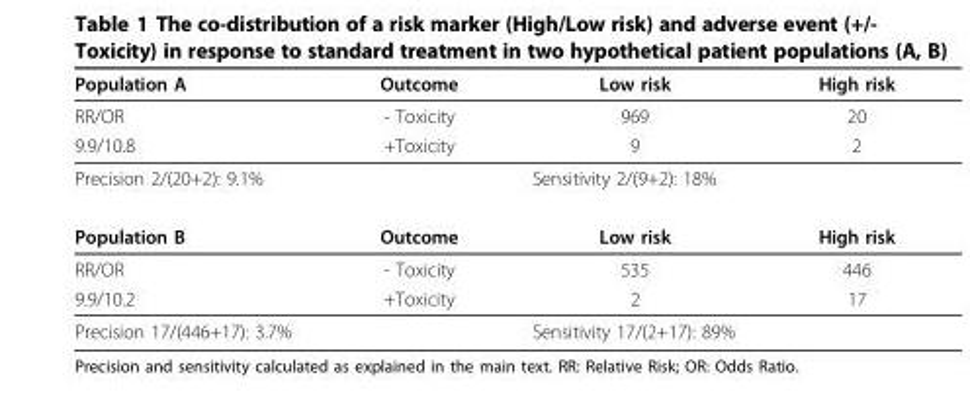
<table><thead><tr><td>Population A</td><td>Outcome</td><td>Low risk</td><td>High risk</td></tr></thead><tbody><tr><td>RR/OR</td><td>- Toxicity</td><td>969</td><td>20</td></tr><tr><td>9.9/10.8</td><td>+Toxicity</td><td>9</td><td>2</td></tr><tr><td colspan="2">Precision 2/(20+2): 9.1%</td><td colspan="2">Sensitivity 2/(9+2): 18%</td></tr><tr><td>Population B</td><td>Outcome</td><td>Low risk</td><td>High risk</td></tr><tr><td>RR/OR</td><td>- Toxicity</td><td>535</td><td>446</td></tr><tr><td>9.9/10.2</td><td>+Toxicity</td><td>2</td><td>17</td></tr><tr><td colspan="2">Precision 17/(446+17): 3.7%</td><td colspan="2">Sensitivity 17/(2+17): 89%</td></tr></tbody></table>